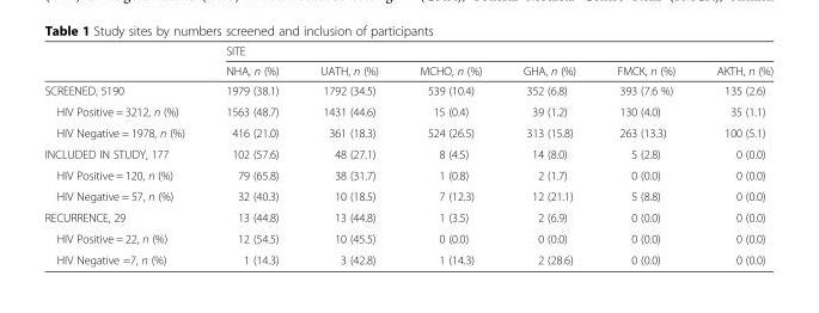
<table><thead><tr><td rowspan="2"></td><td colspan="6">SITE</td></tr><tr><td>NHA, n (%)</td><td>UATH, n (%)</td><td>MCHO, n (%)</td><td>GHA, n (%)</td><td>FMCK, n (%)</td><td>AKTH, n (%)</td></tr></thead><tbody><tr><td>SCREENED, 5190</td><td>1979 (38.1)</td><td>1792 (34.5)</td><td>539 (10.4)</td><td>352 (6.8)</td><td>393 (7.6 %)</td><td>135 (2.6)</td></tr><tr><td>HIV Positive = 3212, n (%)</td><td>1563 (48.7)</td><td>1431 (44.6)</td><td>15 (0.4)</td><td>39 (1.2)</td><td>130 (4.0)</td><td>35 (1.1)</td></tr><tr><td>HIV Negative = 1978, n (%)</td><td>416 (21.0)</td><td>361 (18.3)</td><td>524 (26.5)</td><td>313 (15.8)</td><td>263 (13.3)</td><td>100 (5.1)</td></tr><tr><td>INCLUDED IN STUDY, 177</td><td>102 (57.6)</td><td>48 (27.1)</td><td>8 (4.5)</td><td>14 (8.0)</td><td>5 (2.8)</td><td>0 (0.0)</td></tr><tr><td>HIV Positive = 120, n (%)</td><td>79 (65.8)</td><td>38 (31.7)</td><td>1 (0.8)</td><td>2 (1.7)</td><td>0 (0.0)</td><td>0 (0.0)</td></tr><tr><td>HIV Negative = 57, n (%)</td><td>32 (40.3)</td><td>10 (18.5)</td><td>7 (12.3)</td><td>12 (21.1)</td><td>5 (8.8)</td><td>0 (0.0)</td></tr><tr><td>RECURRENCE, 29</td><td>13 (44.8)</td><td>13 (44.8)</td><td>1 (3.5)</td><td>2 (6.9)</td><td>0 (0.0)</td><td>0 (0.0)</td></tr><tr><td>HIV Positive = 22, n (%)</td><td>12 (54.5)</td><td>10 (45.5)</td><td>0 (0.0)</td><td>0 (0.0)</td><td>0 (0.0)</td><td>0 (0.0)</td></tr><tr><td>HIV Negative =7, n (%)</td><td>1 (14.3)</td><td>3 (42.8)</td><td>1 (14.3)</td><td>2 (28.6)</td><td>0 (0.0)</td><td>0 (0.0)</td></tr></tbody></table>